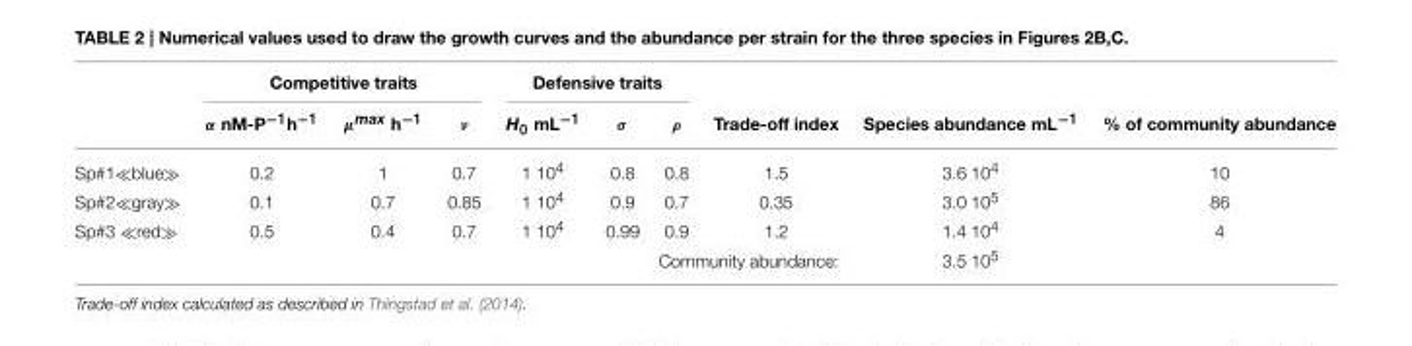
<table><thead><tr><td rowspan="2"></td><td colspan="3">Competitive traits</td><td colspan="3">Defensive traits</td><td rowspan="2">Trade-off index</td><td rowspan="2">Species abundance mL<sup>−1</sup></td><td rowspan="2">% of community abundance</td></tr><tr><td>α nM-P<sup>−1</sup>h<sup>−1</sup></td><td>µ<sup>max</sup> h<sup>−1</sup></td><td>ν</td><td>H<sub>0</sub> mL<sup>−1</sup></td><td>σ</td><td>ρ</td></tr></thead><tbody><tr><td>Sp#1≪blue≫</td><td>0.2</td><td>1</td><td>0.7</td><td>1 10<sup>4</sup></td><td>0.8</td><td>0.8</td><td>1.5</td><td>3.6 10<sup>4</sup></td><td>10</td></tr><tr><td>Sp#2≪gray≫</td><td>0.1</td><td>0.7</td><td>0.85</td><td>1 10<sup>4</sup></td><td>0.9</td><td>0.7</td><td>0.35</td><td>3.0 10<sup>5</sup></td><td>86</td></tr><tr><td>Sp#3 ≪red≫</td><td>0.5</td><td>0.4</td><td>0.7</td><td>1 10<sup>4</sup></td><td>0.99</td><td>0.9</td><td>1.2</td><td>1.4 10<sup>4</sup></td><td>4</td></tr><tr><td colspan="8">Community abundance:</td><td>3.5 10<sup>5</sup></td><td></td></tr></tbody></table>